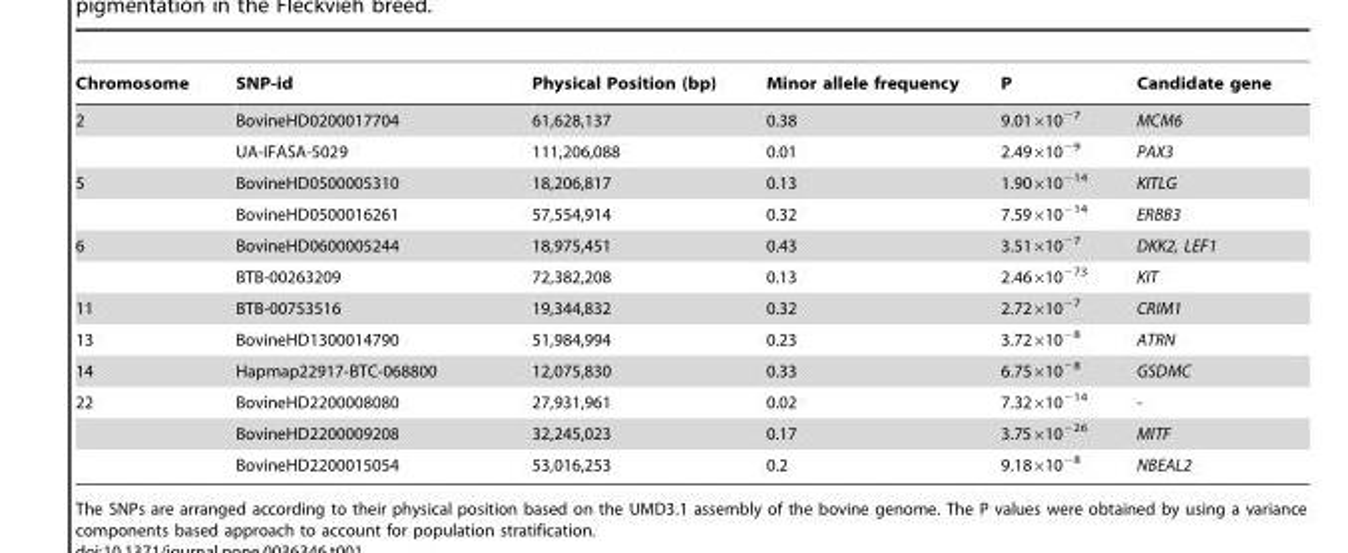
<table><thead><tr><td>Chromosome</td><td>SNP-id</td><td>Physical Position (bp)</td><td>Minor allele frequency</td><td>P</td><td>Candidate gene</td></tr></thead><tbody><tr><td rowspan="2">2</td><td>BovineHD0200017704</td><td>61,628,137</td><td>0.38</td><td>9.01×10<sup>−7</sup></td><td>MCM6</td></tr><tr><td>UA-IFASA-5029</td><td>111,206,088</td><td>0.01</td><td>2.49×10<sup>−9</sup></td><td>PAX3</td></tr><tr><td rowspan="2">5</td><td>BovineHD0500005310</td><td>18,206,817</td><td>0.13</td><td>1.90×10<sup>−14</sup></td><td>KITLG</td></tr><tr><td>BovineHD0500016261</td><td>57,554,914</td><td>0.32</td><td>7.59×10<sup>−14</sup></td><td>ERBB3</td></tr><tr><td rowspan="2">6</td><td>BovineHD0600005244</td><td>18,975,451</td><td>0.43</td><td>3.51×10<sup>−7</sup></td><td>DKK2, LEF1</td></tr><tr><td>BTB-00263209</td><td>72,382,208</td><td>0.13</td><td>2.46×10<sup>−73</sup></td><td>KIT</td></tr><tr><td>11</td><td>BTB-00753516</td><td>19,344,832</td><td>0.32</td><td>2.72×10<sup>−7</sup></td><td>CRIM1</td></tr><tr><td>13</td><td>BovineHD1300014790</td><td>51,984,994</td><td>0.23</td><td>3.72×10<sup>−8</sup></td><td>ATRN</td></tr><tr><td>14</td><td>Hapmap22917-BTC-068800</td><td>12,075,830</td><td>0.33</td><td>6.75×10<sup>−8</sup></td><td>GSDMC</td></tr><tr><td rowspan="3">22</td><td>BovineHD2200008080</td><td>27,931,961</td><td>0.02</td><td>7.32×10<sup>−14</sup></td><td>-</td></tr><tr><td>BovineHD2200009208</td><td>32,245,023</td><td>0.17</td><td>3.75×10<sup>−26</sup></td><td>MITF</td></tr><tr><td>BovineHD2200015054</td><td>53,016,253</td><td>0.2</td><td>9.18×10<sup>−8</sup></td><td>NBEAL2</td></tr></tbody></table>